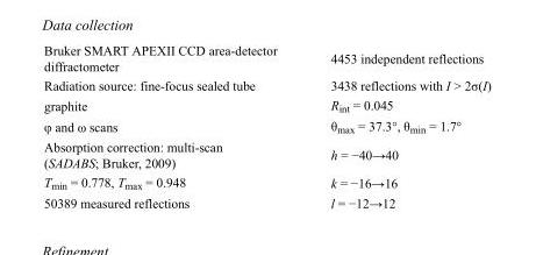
<table><tbody><tr><td>Bruker SMART APEXII CCD area-detector diffractometer</td><td>4453 independent reflections</td></tr><tr><td>Radiation source: fine-focus sealed tube</td><td>3438 reflections with I &gt; 2σ(I)</td></tr><tr><td>graphite</td><td>R<sub>int</sub> = 0.045</td></tr><tr><td>φ and ω scans</td><td>θ<sub>max</sub> = 37.3°, θ<sub>min</sub> = 1.7°</td></tr><tr><td>Absorption correction: multi-scan (SADABS; Bruker, 2009)</td><td>h = −40→40</td></tr><tr><td>T<sub>min</sub> = 0.778, T<sub>max</sub> = 0.948</td><td>k = −16→16</td></tr><tr><td>50389 measured reflections</td><td>l = −12→12</td></tr></tbody></table>